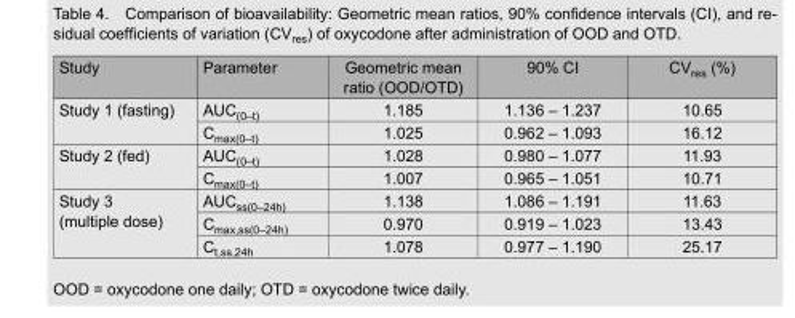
<table><thead><tr><td>Study</td><td>Parameter</td><td>Geometric mean ratio (OOD/OTD)</td><td>90% CI</td><td>CV<sub>res</sub> (%)</td></tr></thead><tbody><tr><td rowspan="2">Study 1 (fasting)</td><td>AUC<sub>(0–t)</sub></td><td>1.185</td><td>1.136 – 1.237</td><td>10.65</td></tr><tr><td>C<sub>max(0–t)</sub></td><td>1.025</td><td>0.962 – 1.093</td><td>16.12</td></tr><tr><td rowspan="2">Study 2 (fed)</td><td>AUC<sub>(0–t)</sub></td><td>1.028</td><td>0.980 – 1.077</td><td>11.93</td></tr><tr><td>C<sub>max(0–t)</sub></td><td>1.007</td><td>0.965 – 1.051</td><td>10.71</td></tr><tr><td rowspan="3">Study 3 (multiple dose)</td><td>AUC<sub>ss(0–24h)</sub></td><td>1.138</td><td>1.086 – 1.191</td><td>11.63</td></tr><tr><td>C<sub>max,ss(0–24h)</sub></td><td>0.970</td><td>0.919 – 1.023</td><td>13.43</td></tr><tr><td>C<sub>t,ss,24h</sub></td><td>1.078</td><td>0.977 – 1.190</td><td>25.17</td></tr></tbody></table>